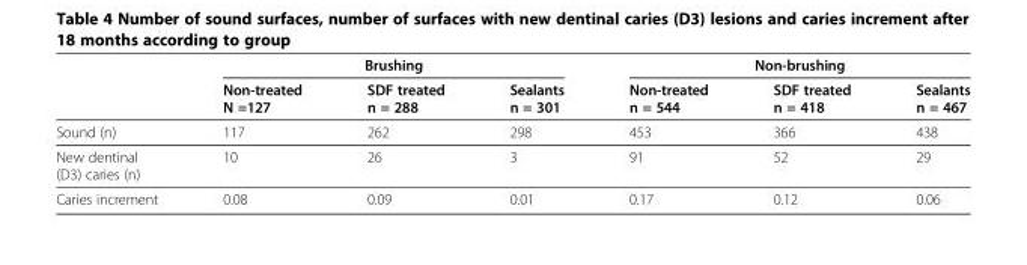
<table><thead><tr><td rowspan="2"></td><td colspan="3">Brushing</td><td colspan="3">Non-brushing</td></tr><tr><td>Non-treated N =127</td><td>SDF treated n = 288</td><td>Sealants n = 301</td><td>Non-treated n = 544</td><td>SDF treated n = 418</td><td>Sealants n = 467</td></tr></thead><tbody><tr><td>Sound (n)</td><td>117</td><td>262</td><td>298</td><td>453</td><td>366</td><td>438</td></tr><tr><td>New dentinal (D3) caries (n)</td><td>10</td><td>26</td><td>3</td><td>91</td><td>52</td><td>29</td></tr><tr><td>Caries increment</td><td>0.08</td><td>0.09</td><td>0.01</td><td>0.17</td><td>0.12</td><td>0.06</td></tr></tbody></table>